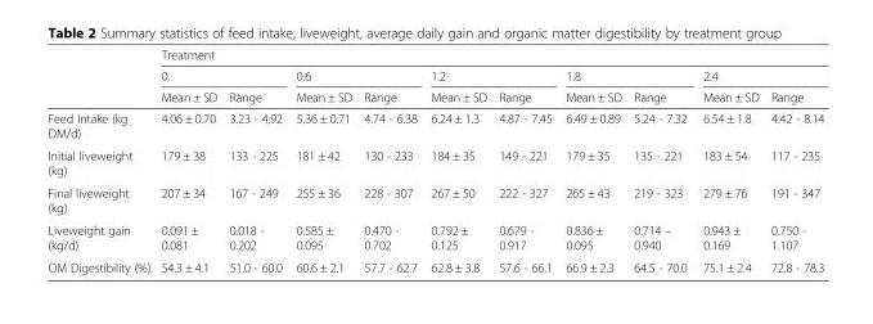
<table><thead><tr><td rowspan="3"></td><td colspan="10">Treatment</td></tr><tr><td colspan="2">0</td><td colspan="2">0.6</td><td colspan="2">1.2</td><td colspan="2">1.8</td><td colspan="2">2.4</td></tr><tr><td>Mean ± SD</td><td>Range</td><td>Mean ± SD</td><td>Range</td><td>Mean ± SD</td><td>Range</td><td>Mean ± SD</td><td>Range</td><td>Mean ± SD</td><td>Range</td></tr></thead><tbody><tr><td>Feed Intake (kg DM/d)</td><td>4.06 ± 0.70</td><td>3.23 - 4.92</td><td>5.36 ± 0.71</td><td>4.74 - 6.38</td><td>6.24 ± 1.3</td><td>4.87 - 7.45</td><td>6.49 ± 0.89</td><td>5.24 - 7.32</td><td>6.54 ± 1.8</td><td>4.42 - 8.14</td></tr><tr><td>Initial liveweight (kg)</td><td>179 ± 38</td><td>133 - 225</td><td>181 ± 42</td><td>130 - 233</td><td>184 ± 35</td><td>149 - 221</td><td>179 ± 35</td><td>135 - 221</td><td>183 ± 54</td><td>117 - 235</td></tr><tr><td>Final liveweight (kg)</td><td>207 ± 34</td><td>167 - 249</td><td>255 ± 36</td><td>228 - 307</td><td>267 ± 50</td><td>222 - 327</td><td>265 ± 43</td><td>219 - 323</td><td>279 ± 76</td><td>191 - 347</td></tr><tr><td>Liveweight gain (kg/d)</td><td>0.091 ± 0.081</td><td>0.018 - 0.202</td><td>0.585 ± 0.095</td><td>0.470 - 0.702</td><td>0.792 ± 0.125</td><td>0.679 - 0.917</td><td>0.836 ± 0.095</td><td>0.714 – 0.940</td><td>0.943 ± 0.169</td><td>0.750 - 1.107</td></tr><tr><td>OM Digestibility (%)</td><td>54.3 ± 4.1</td><td>51.0 - 60.0</td><td>60.6 ± 2.1</td><td>57.7 - 62.7</td><td>62.8 ± 3.8</td><td>57.6 - 66.1</td><td>66.9 ± 2.3</td><td>64.5 - 70.0</td><td>75.1 ± 2.4</td><td>72.8 - 78.3</td></tr></tbody></table>